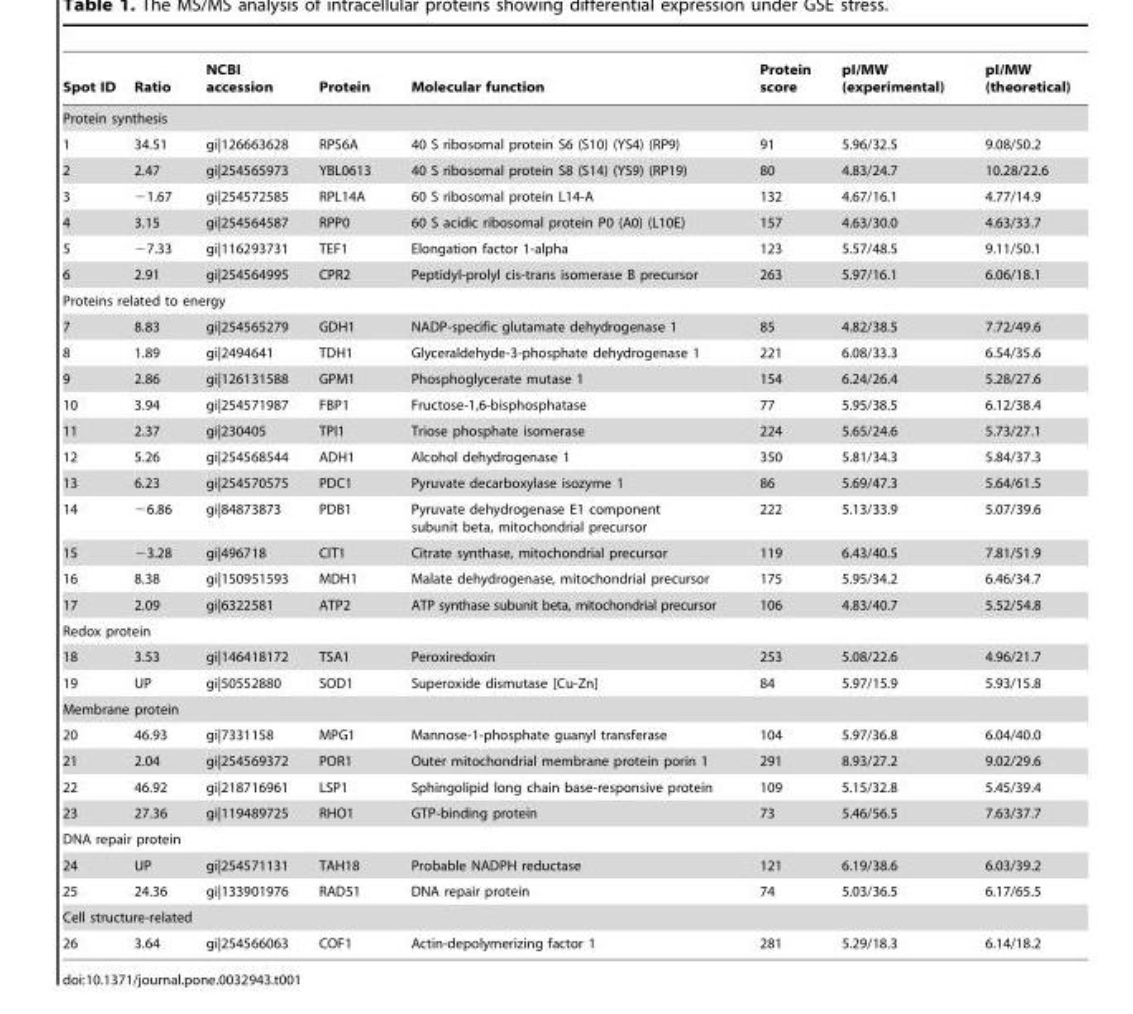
<table><thead><tr><td>Spot ID</td><td>Ratio</td><td>NCBI accession</td><td>Protein</td><td>Molecular function</td><td>Protein score</td><td>pI/MW (experimental)</td><td>pI/MW (theoretical)</td></tr></thead><tbody><tr><td colspan="8">Protein synthesis</td></tr><tr><td>1</td><td>34.51</td><td>gi|126663628</td><td>RPS6A</td><td>40 S ribosomal protein S6 (S10) (YS4) (RP9)</td><td>91</td><td>5.96/32.5</td><td>9.08/50.2</td></tr><tr><td>2</td><td>2.47</td><td>gi|254565973</td><td>YBL0613</td><td>40 S ribosomal protein S8 (S14) (YS9) (RP19)</td><td>80</td><td>4.83/24.7</td><td>10.28/22.6</td></tr><tr><td>3</td><td>−1.67</td><td>gi|254572585</td><td>RPL14A</td><td>60 S ribosomal protein L14-A</td><td>132</td><td>4.67/16.1</td><td>4.77/14.9</td></tr><tr><td>4</td><td>3.15</td><td>gi|254564587</td><td>RPP0</td><td>60 S acidic ribosomal protein P0 (A0) (L10E)</td><td>157</td><td>4.63/30.0</td><td>4.63/33.7</td></tr><tr><td>5</td><td>−7.33</td><td>gi|116293731</td><td>TEF1</td><td>Elongation factor 1-alpha</td><td>123</td><td>5.57/48.5</td><td>9.11/50.1</td></tr><tr><td>6</td><td>2.91</td><td>gi|254564995</td><td>CPR2</td><td>Peptidyl-prolyl cis-trans isomerase B precursor</td><td>263</td><td>5.97/16.1</td><td>6.06/18.1</td></tr><tr><td colspan="8">Proteins related to energy</td></tr><tr><td>7</td><td>8.83</td><td>gi|254565279</td><td>GDH1</td><td>NADP-specific glutamate dehydrogenase 1</td><td>85</td><td>4.82/38.5</td><td>7.72/49.6</td></tr><tr><td>8</td><td>1.89</td><td>gi|2494641</td><td>TDH1</td><td>Glyceraldehyde-3-phosphate dehydrogenase 1</td><td>221</td><td>6.08/33.3</td><td>6.54/35.6</td></tr><tr><td>9</td><td>2.86</td><td>gi|126131588</td><td>GPM1</td><td>Phosphoglycerate mutase 1</td><td>154</td><td>6.24/26.4</td><td>5.28/27.6</td></tr><tr><td>10</td><td>3.94</td><td>gi|254571987</td><td>FBP1</td><td>Fructose-1,6-bisphosphatase</td><td>77</td><td>5.95/38.5</td><td>6.12/38.4</td></tr><tr><td>11</td><td>2.37</td><td>gi|230405</td><td>TPI1</td><td>Triose phosphate isomerase</td><td>224</td><td>5.65/24.6</td><td>5.73/27.1</td></tr><tr><td>12</td><td>5.26</td><td>gi|254568544</td><td>ADH1</td><td>Alcohol dehydrogenase 1</td><td>350</td><td>5.81/34.3</td><td>5.84/37.3</td></tr><tr><td>13</td><td>6.23</td><td>gi|254570575</td><td>PDC1</td><td>Pyruvate decarboxylase isozyme 1</td><td>86</td><td>5.69/47.3</td><td>5.64/61.5</td></tr><tr><td>14</td><td>−6.86</td><td>gi|84873873</td><td>PDB1</td><td>Pyruvate dehydrogenase E1 component subunit beta, mitochondrial precursor</td><td>222</td><td>5.13/33.9</td><td>5.07/39.6</td></tr><tr><td>15</td><td>−3.28</td><td>gi|496718</td><td>CIT1</td><td>Citrate synthase, mitochondrial precursor</td><td>119</td><td>6.43/40.5</td><td>7.81/51.9</td></tr><tr><td>16</td><td>8.38</td><td>gi|150951593</td><td>MDH1</td><td>Malate dehydrogenase, mitochondrial precursor</td><td>175</td><td>5.95/34.2</td><td>6.46/34.7</td></tr><tr><td>17</td><td>2.09</td><td>gi|6322581</td><td>ATP2</td><td>ATP synthase subunit beta, mitochondrial precursor</td><td>106</td><td>4.83/40.7</td><td>5.52/54.8</td></tr><tr><td colspan="8">Redox protein</td></tr><tr><td>18</td><td>3.53</td><td>gi|146418172</td><td>TSA1</td><td>Peroxiredoxin</td><td>253</td><td>5.08/22.6</td><td>4.96/21.7</td></tr><tr><td>19</td><td>UP</td><td>gi|50552880</td><td>SOD1</td><td>Superoxide dismutase [Cu-Zn]</td><td>84</td><td>5.97/15.9</td><td>5.93/15.8</td></tr><tr><td colspan="8">Membrane protein</td></tr><tr><td>20</td><td>46.93</td><td>gi|7331158</td><td>MPG1</td><td>Mannose-1-phosphate guanyl transferase</td><td>104</td><td>5.97/36.8</td><td>6.04/40.0</td></tr><tr><td>21</td><td>2.04</td><td>gi|254569372</td><td>POR1</td><td>Outer mitochondrial membrane protein porin 1</td><td>291</td><td>8.93/27.2</td><td>9.02/29.6</td></tr><tr><td>22</td><td>46.92</td><td>gi|218716961</td><td>LSP1</td><td>Sphingolipid long chain base-responsive protein</td><td>109</td><td>5.15/32.8</td><td>5.45/39.4</td></tr><tr><td>23</td><td>27.36</td><td>gi|119489725</td><td>RHO1</td><td>GTP-binding protein</td><td>73</td><td>5.46/56.5</td><td>7.63/37.7</td></tr><tr><td colspan="8">DNA repair protein</td></tr><tr><td>24</td><td>UP</td><td>gi|254571131</td><td>TAH18</td><td>Probable NADPH reductase</td><td>121</td><td>6.19/38.6</td><td>6.03/39.2</td></tr><tr><td>25</td><td>24.36</td><td>gi|133901976</td><td>RAD51</td><td>DNA repair protein</td><td>74</td><td>5.03/36.5</td><td>6.17/65.5</td></tr><tr><td colspan="8">Cell structure-related</td></tr><tr><td>26</td><td>3.64</td><td>gi|254566063</td><td>COF1</td><td>Actin-depolymerizing factor 1</td><td>281</td><td>5.29/18.3</td><td>6.14/18.2</td></tr></tbody></table>